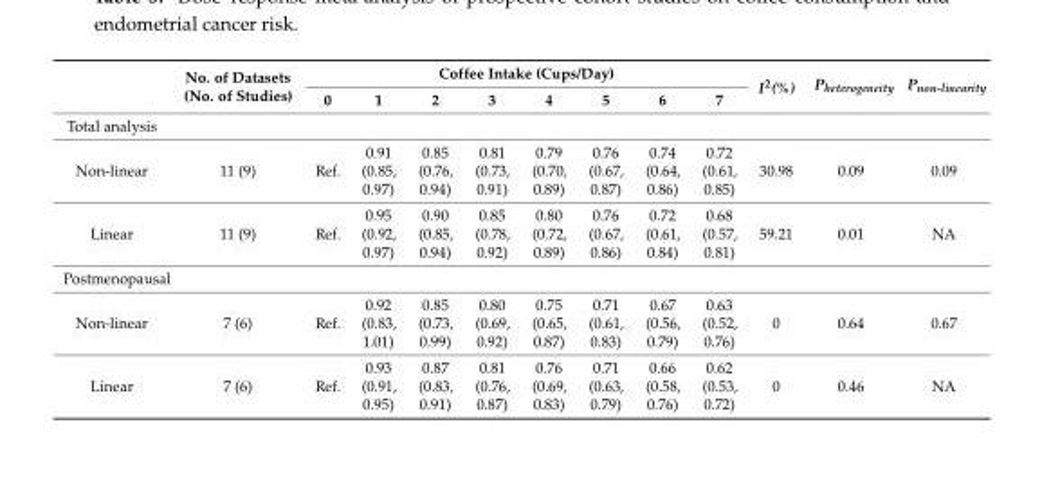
<table><thead><tr><td rowspan="2"></td><td rowspan="2">No. of Datasets (No. of Studies)</td><td colspan="8">Coffee Intake (Cups/Day)</td><td rowspan="2">I<sup>2</sup>(%)</td><td rowspan="2">P<sub>heterogeneity</sub></td><td rowspan="2">P<sub>non-linearity</sub></td></tr><tr><td>0</td><td>1</td><td>2</td><td>3</td><td>4</td><td>5</td><td>6</td><td>7</td></tr></thead><tbody><tr><td colspan="13">Total analysis</td></tr><tr><td>Non-linear</td><td>11 (9)</td><td>Ref.</td><td>0.91 (0.85, 0.97)</td><td>0.85 (0.76, 0.94)</td><td>0.81 (0.73, 0.91)</td><td>0.79 (0.70, 0.89)</td><td>0.76 (0.67, 0.87)</td><td>0.74 (0.64, 0.86)</td><td>0.72 (0.61, 0.85)</td><td>30.98</td><td>0.09</td><td>0.09</td></tr><tr><td>Linear</td><td>11 (9)</td><td>Ref.</td><td>0.95 (0.92, 0.97)</td><td>0.90 (0.85, 0.94)</td><td>0.85 (0.78, 0.92)</td><td>0.80 (0.72, 0.89)</td><td>0.76 (0.67, 0.86)</td><td>0.72 (0.61, 0.84)</td><td>0.68 (0.57, 0.81)</td><td>59.21</td><td>0.01</td><td>NA</td></tr><tr><td colspan="13">Postmenopausal</td></tr><tr><td>Non-linear</td><td>7 (6)</td><td>Ref.</td><td>0.92 (0.83, 1.01)</td><td>0.85 (0.73, 0.99)</td><td>0.80 (0.69, 0.92)</td><td>0.75 (0.65, 0.87)</td><td>0.71 (0.61, 0.83)</td><td>0.67 (0.56, 0.79)</td><td>0.63 (0.52, 0.76)</td><td>0</td><td>0.64</td><td>0.67</td></tr><tr><td>Linear</td><td>7 (6)</td><td>Ref.</td><td>0.93 (0.91, 0.95)</td><td>0.87 (0.83, 0.91)</td><td>0.81 (0.76, 0.87)</td><td>0.76 (0.69, 0.83)</td><td>0.71 (0.63, 0.79)</td><td>0.66 (0.58, 0.76)</td><td>0.62 (0.53, 0.72)</td><td>0</td><td>0.46</td><td>NA</td></tr></tbody></table>